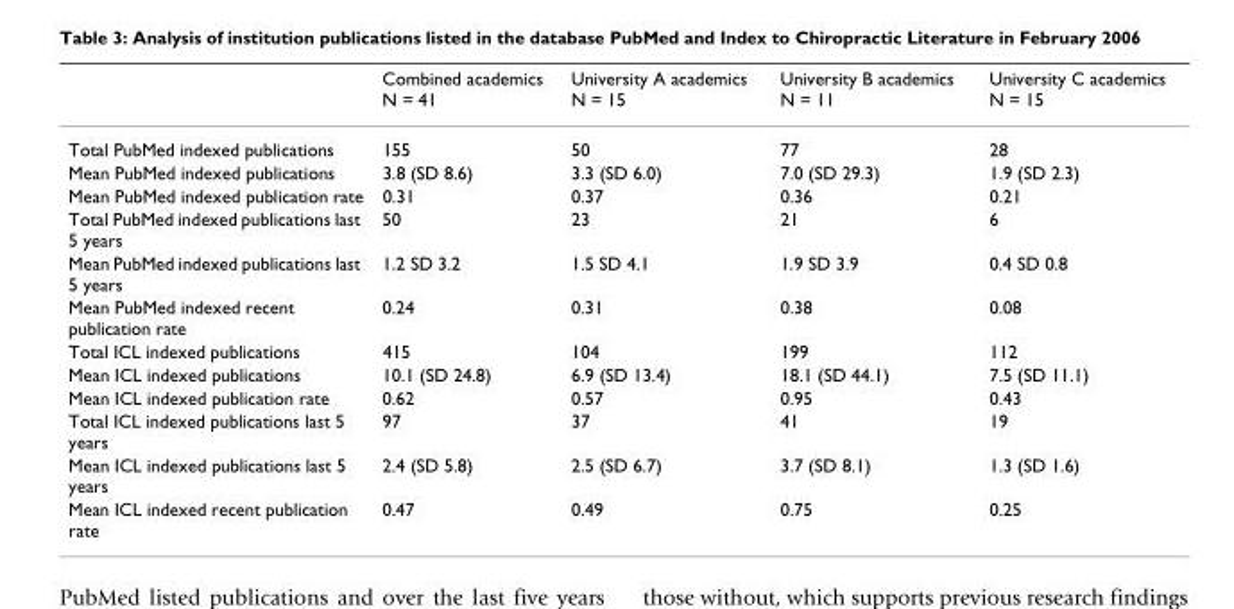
<table><thead><tr><td></td><td>Combined academics N = 41</td><td>University A academics N = 15</td><td>University B academics N = 11</td><td>University C academics N = 15</td></tr></thead><tbody><tr><td>Total PubMed indexed publications</td><td>155</td><td>50</td><td>77</td><td>28</td></tr><tr><td>Mean PubMed indexed publications</td><td>3.8 (SD 8.6)</td><td>3.3 (SD 6.0)</td><td>7.0 (SD 29.3)</td><td>1.9 (SD 2.3)</td></tr><tr><td>Mean PubMed indexed publication rate</td><td>0.31</td><td>0.37</td><td>0.36</td><td>0.21</td></tr><tr><td>Total PubMed indexed publications last 5 years</td><td>50</td><td>23</td><td>21</td><td>6</td></tr><tr><td>Mean PubMed indexed publications last 5 years</td><td>1.2 SD 3.2</td><td>1.5 SD 4.1</td><td>1.9 SD 3.9</td><td>0.4 SD 0.8</td></tr><tr><td>Mean PubMed indexed recent publication rate</td><td>0.24</td><td>0.31</td><td>0.38</td><td>0.08</td></tr><tr><td>Total ICL indexed publications</td><td>415</td><td>104</td><td>199</td><td>112</td></tr><tr><td>Mean ICL indexed publications</td><td>10.1 (SD 24.8)</td><td>6.9 (SD 13.4)</td><td>18.1 (SD 44.1)</td><td>7.5 (SD 11.1)</td></tr><tr><td>Mean ICL indexed publication rate</td><td>0.62</td><td>0.57</td><td>0.95</td><td>0.43</td></tr><tr><td>Total ICL indexed publications last 5 years</td><td>97</td><td>37</td><td>41</td><td>19</td></tr><tr><td>Mean ICL indexed publications last 5 years</td><td>2.4 (SD 5.8)</td><td>2.5 (SD 6.7)</td><td>3.7 (SD 8.1)</td><td>1.3 (SD 1.6)</td></tr><tr><td>Mean ICL indexed recent publication rate</td><td>0.47</td><td>0.49</td><td>0.75</td><td>0.25</td></tr></tbody></table>